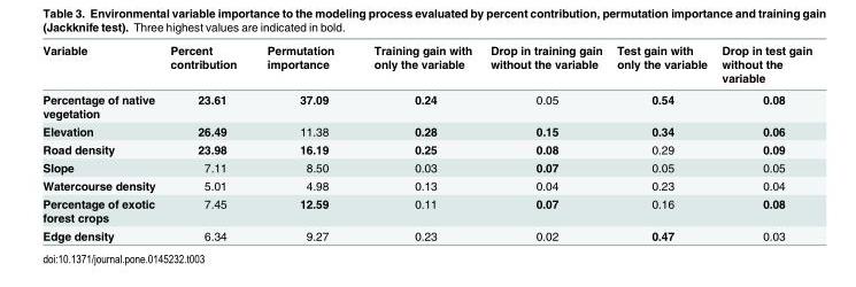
<table><thead><tr><td>Variable</td><td>Percent contribution</td><td>Permutation importance</td><td>Training gain with only the variable</td><td>Drop in training gain without the variable</td><td>Test gain with only the variable</td><td>Drop in test gain without the variable</td></tr></thead><tbody><tr><td>Percentage of native vegetation</td><td>23.61</td><td>37.09</td><td>0.24</td><td>0.05</td><td>0.54</td><td>0.08</td></tr><tr><td>Elevation</td><td>26.49</td><td>11.38</td><td>0.28</td><td>0.15</td><td>0.34</td><td>0.06</td></tr><tr><td>Road density</td><td>23.98</td><td>16.19</td><td>0.25</td><td>0.08</td><td>0.29</td><td>0.09</td></tr><tr><td>Slope</td><td>7.11</td><td>8.50</td><td>0.03</td><td>0.07</td><td>0.05</td><td>0.05</td></tr><tr><td>Watercourse density</td><td>5.01</td><td>4.98</td><td>0.13</td><td>0.04</td><td>0.23</td><td>0.04</td></tr><tr><td>Percentage of exotic forest crops</td><td>7.45</td><td>12.59</td><td>0.11</td><td>0.07</td><td>0.16</td><td>0.08</td></tr><tr><td>Edge density</td><td>6.34</td><td>9.27</td><td>0.23</td><td>0.02</td><td>0.47</td><td>0.03</td></tr></tbody></table>